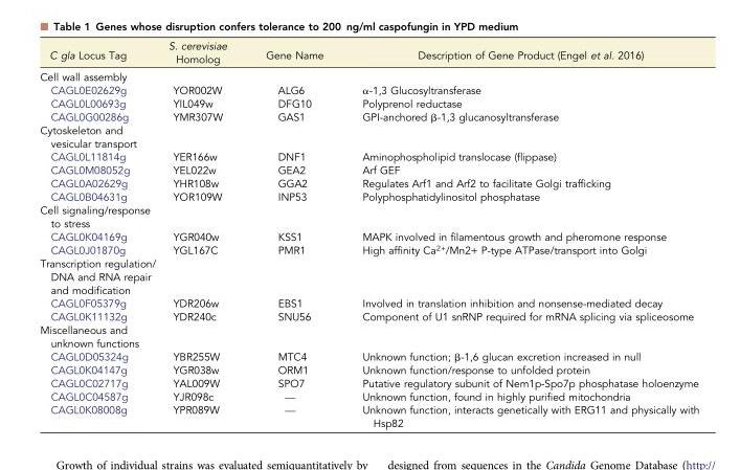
<table><thead><tr><td>C gla Locus Tag</td><td>S. cerevisiae Homolog</td><td>Gene Name</td><td>Description of Gene Product (Engel et al. 2016)</td></tr></thead><tbody><tr><td colspan="4">Cell wall assembly</td></tr><tr><td>CAGL0E02629g</td><td>YOR002W</td><td>ALG6</td><td>α-1,3 Glucosyltransferase</td></tr><tr><td>CAGL0L00693g</td><td>YIL049w</td><td>DFG10</td><td>Polyprenol reductase</td></tr><tr><td>CAGL0G00286g</td><td>YMR307W</td><td>GAS1</td><td>GPI-anchored β-1,3 glucanosyltransferase</td></tr><tr><td colspan="4">Cytoskeleton and vesicular transport</td></tr><tr><td>CAGL0L11814g</td><td>YER166w</td><td>DNF1</td><td>Aminophospholipid translocase (flippase)</td></tr><tr><td>CAGL0M08052g</td><td>YEL022w</td><td>GEA2</td><td>Arf GEF</td></tr><tr><td>CAGL0A02629g</td><td>YHR108w</td><td>GGA2</td><td>Regulates Arf1 and Arf2 to facilitate Golgi trafficking</td></tr><tr><td>CAGL0B04631g</td><td>YOR109W</td><td>INP53</td><td>Polyphosphatidylinositol phosphatase</td></tr><tr><td colspan="4">Cell signaling/response to stress</td></tr><tr><td>CAGL0K04169g</td><td>YGR040w</td><td>KSS1</td><td>MAPK involved in filamentous growth and pheromone response</td></tr><tr><td>CAGL0J01870g</td><td>YGL167C</td><td>PMR1</td><td>High affinity Ca<sup>2+</sup>/Mn2+ P-type ATPase/transport into Golgi</td></tr><tr><td colspan="4">Transcription regulation/ DNA and RNA repair and modification</td></tr><tr><td>CAGL0F05379g</td><td>YDR206w</td><td>EBS1</td><td>Involved in translation inhibition and nonsense-mediated decay</td></tr><tr><td>CAGL0K11132g</td><td>YDR240c</td><td>SNU56</td><td>Component of U1 snRNP required for mRNA splicing via spliceosome</td></tr><tr><td colspan="4">Miscellaneous and unknown functions</td></tr><tr><td>CAGL0D05324g</td><td>YBR255W</td><td>MTC4</td><td>Unknown function; β-1,6 glucan excretion increased in null</td></tr><tr><td>CAGL0K04147g</td><td>YGR038w</td><td>ORM1</td><td>Unknown function/response to unfolded protein</td></tr><tr><td>CAGL0C02717g</td><td>YAL009W</td><td>SPO7</td><td>Putative regulatory subunit of Nem1p-Spo7p phosphatase holoenzyme</td></tr><tr><td>CAGL0C04587g</td><td>YJR098c</td><td>—</td><td>Unknown function, found in highly purified mitochondria</td></tr><tr><td>CAGL0K08008g</td><td>YPR089W</td><td>—</td><td>Unknown function, interacts genetically with ERG11 and physically with Hsp82</td></tr></tbody></table>